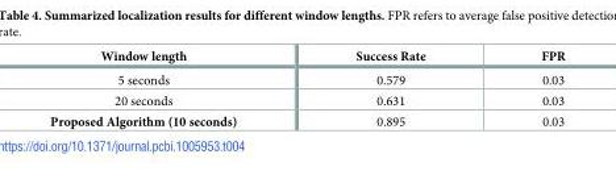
<table><thead><tr><td>Window length</td><td>Success Rate</td><td>FPR</td></tr></thead><tbody><tr><td>5 seconds</td><td>0.579</td><td>0.03</td></tr><tr><td>20 seconds</td><td>0.631</td><td>0.03</td></tr><tr><td>Proposed Algorithm (10 seconds)</td><td>0.895</td><td>0.03</td></tr></tbody></table>